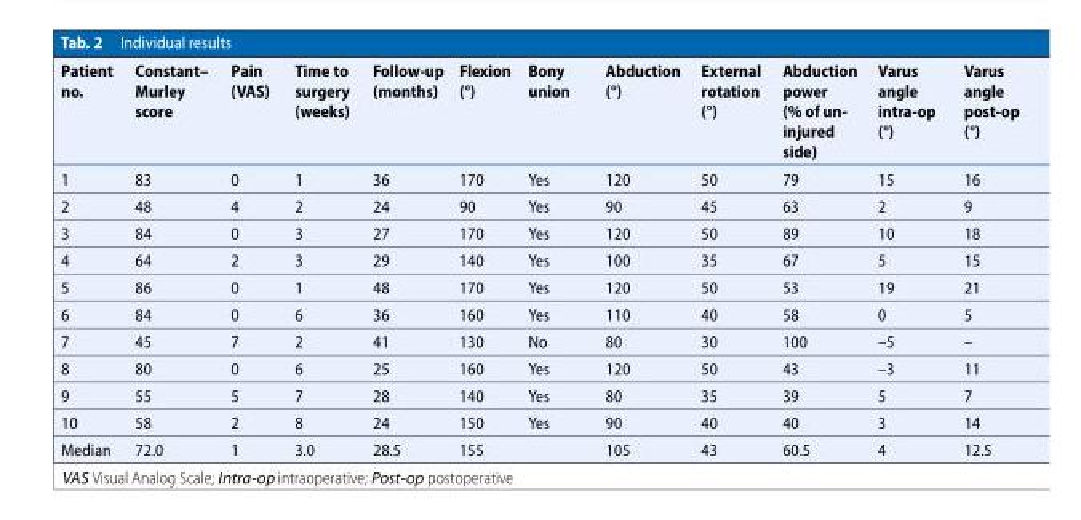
<table><thead><tr><td>Patient no.</td><td>Constant– Murley score</td><td>Pain (VAS)</td><td>Time to surgery (weeks)</td><td>Follow-up (months)</td><td>Flexion (°)</td><td>Bony union</td><td>Abduction (°)</td><td>External rotation (°)</td><td>Abduction power (% of un- injured side)</td><td>Varus angle intra-op (°)</td><td>Varus angle post-op (°)</td></tr></thead><tbody><tr><td>1</td><td>83</td><td>0</td><td>1</td><td>36</td><td>170</td><td>Yes</td><td>120</td><td>50</td><td>79</td><td>15</td><td>16</td></tr><tr><td>2</td><td>48</td><td>4</td><td>2</td><td>24</td><td>90</td><td>Yes</td><td>90</td><td>45</td><td>63</td><td>2</td><td>9</td></tr><tr><td>3</td><td>84</td><td>0</td><td>3</td><td>27</td><td>170</td><td>Yes</td><td>120</td><td>50</td><td>89</td><td>10</td><td>18</td></tr><tr><td>4</td><td>64</td><td>2</td><td>3</td><td>29</td><td>140</td><td>Yes</td><td>100</td><td>35</td><td>67</td><td>5</td><td>15</td></tr><tr><td>5</td><td>86</td><td>0</td><td>1</td><td>48</td><td>170</td><td>Yes</td><td>120</td><td>50</td><td>53</td><td>19</td><td>21</td></tr><tr><td>6</td><td>84</td><td>0</td><td>6</td><td>36</td><td>160</td><td>Yes</td><td>110</td><td>40</td><td>58</td><td>0</td><td>5</td></tr><tr><td>7</td><td>45</td><td>7</td><td>2</td><td>41</td><td>130</td><td>No</td><td>80</td><td>30</td><td>100</td><td>–5</td><td>–</td></tr><tr><td>8</td><td>80</td><td>0</td><td>6</td><td>25</td><td>160</td><td>Yes</td><td>120</td><td>50</td><td>43</td><td>–3</td><td>11</td></tr><tr><td>9</td><td>55</td><td>5</td><td>7</td><td>28</td><td>140</td><td>Yes</td><td>80</td><td>35</td><td>39</td><td>5</td><td>7</td></tr><tr><td>10</td><td>58</td><td>2</td><td>8</td><td>24</td><td>150</td><td>Yes</td><td>90</td><td>40</td><td>40</td><td>3</td><td>14</td></tr><tr><td>Median</td><td>72.0</td><td>1</td><td>3.0</td><td>28.5</td><td>155</td><td></td><td>105</td><td>43</td><td>60.5</td><td>4</td><td>12.5</td></tr></tbody></table>